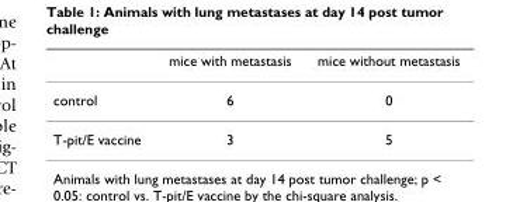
<table><thead><tr><td></td><td>mice with metastasis</td><td>mice without metastasis</td></tr></thead><tbody><tr><td>control</td><td>6</td><td>0</td></tr><tr><td>T-pit/E vaccine</td><td>3</td><td>5</td></tr></tbody></table>